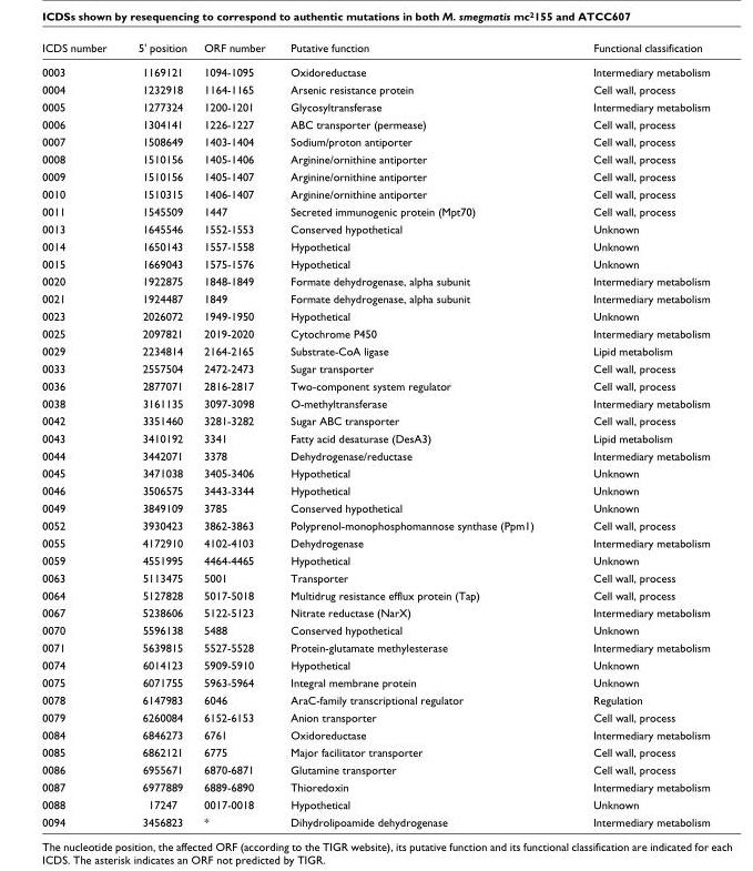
<table><thead><tr><td>ICDS number</td><td>5&#x27; position</td><td>ORF number</td><td>Putative function</td><td>Functional classification</td></tr></thead><tbody><tr><td>0003</td><td>1169121</td><td>1094-1095</td><td>Oxidoreductase</td><td>Intermediary metabolism</td></tr><tr><td>0004</td><td>1232918</td><td>1164-1165</td><td>Arsenic resistance protein</td><td>Cell wall, process</td></tr><tr><td>0005</td><td>1277324</td><td>1200-1201</td><td>Glycosyltransferase</td><td>Intermediary metabolism</td></tr><tr><td>0006</td><td>1304141</td><td>1226-1227</td><td>ABC transporter (permease)</td><td>Cell wall, process</td></tr><tr><td>0007</td><td>1508649</td><td>1403-1404</td><td>Sodium/proton antiporter</td><td>Cell wall, process</td></tr><tr><td>0008</td><td>1510156</td><td>1405-1406</td><td>Arginine/ornithine antiporter</td><td>Cell wall, process</td></tr><tr><td>0009</td><td>1510156</td><td>1405-1407</td><td>Arginine/ornithine antiporter</td><td>Cell wall, process</td></tr><tr><td>0010</td><td>1510315</td><td>1406-1407</td><td>Arginine/ornithine antiporter</td><td>Cell wall, process</td></tr><tr><td>0011</td><td>1545509</td><td>1447</td><td>Secreted immunogenic protein (Mpt70)</td><td>Cell wall, process</td></tr><tr><td>0013</td><td>1645546</td><td>1552-1553</td><td>Conserved hypothetical</td><td>Unknown</td></tr><tr><td>0014</td><td>1650143</td><td>1557-1558</td><td>Hypothetical</td><td>Unknown</td></tr><tr><td>0015</td><td>1669043</td><td>1575-1576</td><td>Hypothetical</td><td>Unknown</td></tr><tr><td>0020</td><td>1922875</td><td>1848-1849</td><td>Formate dehydrogenase, alpha subunit</td><td>Intermediary metabolism</td></tr><tr><td>0021</td><td>1924487</td><td>1849</td><td>Formate dehydrogenase, alpha subunit</td><td>Intermediary metabolism</td></tr><tr><td>0023</td><td>2026072</td><td>1949-1950</td><td>Hypothetical</td><td>Unknown</td></tr><tr><td>0025</td><td>2097821</td><td>2019-2020</td><td>Cytochrome P450</td><td>Intermediary metabolism</td></tr><tr><td>0029</td><td>2234814</td><td>2164-2165</td><td>Substrate-CoA ligase</td><td>Lipid metabolism</td></tr><tr><td>0033</td><td>2557504</td><td>2472-2473</td><td>Sugar transporter</td><td>Cell wall, process</td></tr><tr><td>0036</td><td>2877071</td><td>2816-2817</td><td>Two-component system regulator</td><td>Cell wall, process</td></tr><tr><td>0038</td><td>3161135</td><td>3097-3098</td><td>O-methyltransferase</td><td>Intermediary metabolism</td></tr><tr><td>0042</td><td>3351460</td><td>3281-3282</td><td>Sugar ABC transporter</td><td>Cell wall, process</td></tr><tr><td>0043</td><td>3410192</td><td>3341</td><td>Fatty acid desaturase (DesA3)</td><td>Lipid metabolism</td></tr><tr><td>0044</td><td>3442071</td><td>3378</td><td>Dehydrogenase/reductase</td><td>Intermediary metabolism</td></tr><tr><td>0045</td><td>3471038</td><td>3405-3406</td><td>Hypothetical</td><td>Unknown</td></tr><tr><td>0046</td><td>3506575</td><td>3443-3344</td><td>Hypothetical</td><td>Unknown</td></tr><tr><td>0049</td><td>3849109</td><td>3785</td><td>Conserved hypothetical</td><td>Unknown</td></tr><tr><td>0052</td><td>3930423</td><td>3862-3863</td><td>Polyprenol-monophosphomannose synthase (Ppm1)</td><td>Cell wall, process</td></tr><tr><td>0055</td><td>4172910</td><td>4102-4103</td><td>Dehydrogenase</td><td>Intermediary metabolism</td></tr><tr><td>0059</td><td>4551995</td><td>4464-4465</td><td>Hypothetical</td><td>Unknown</td></tr><tr><td>0063</td><td>5113475</td><td>5001</td><td>Transporter</td><td>Cell wall, process</td></tr><tr><td>0064</td><td>5127828</td><td>5017-5018</td><td>Multidrug resistance efflux protein (Tap)</td><td>Cell wall, process</td></tr><tr><td>0067</td><td>5238606</td><td>5122-5123</td><td>Nitrate reductase (NarX)</td><td>Intermediary metabolism</td></tr><tr><td>0070</td><td>5596138</td><td>5488</td><td>Conserved hypothetical</td><td>Unknown</td></tr><tr><td>0071</td><td>5639815</td><td>5527-5528</td><td>Protein-glutamate methylesterase</td><td>Intermediary metabolism</td></tr><tr><td>0074</td><td>6014123</td><td>5909-5910</td><td>Hypothetical</td><td>Unknown</td></tr><tr><td>0075</td><td>6071755</td><td>5963-5964</td><td>Integral membrane protein</td><td>Unknown</td></tr><tr><td>0078</td><td>6147983</td><td>6046</td><td>AraC-family transcriptional regulator</td><td>Regulation</td></tr><tr><td>0079</td><td>6260084</td><td>6152-6153</td><td>Anion transporter</td><td>Cell wall, process</td></tr><tr><td>0084</td><td>6846273</td><td>6761</td><td>Oxidoreductase</td><td>Intermediary metabolism</td></tr><tr><td>0085</td><td>6862121</td><td>6775</td><td>Major facilitator transporter</td><td>Cell wall, process</td></tr><tr><td>0086</td><td>6955671</td><td>6870-6871</td><td>Glutamine transporter</td><td>Cell wall, process</td></tr><tr><td>0087</td><td>6977889</td><td>6889-6890</td><td>Thioredoxin</td><td>Intermediary metabolism</td></tr><tr><td>0088</td><td>17247</td><td>0017-0018</td><td>Hypothetical</td><td>Unknown</td></tr><tr><td>0094</td><td>3456823</td><td>*</td><td>Dihydrolipoamide dehydrogenase</td><td>Intermediary metabolism</td></tr></tbody></table>